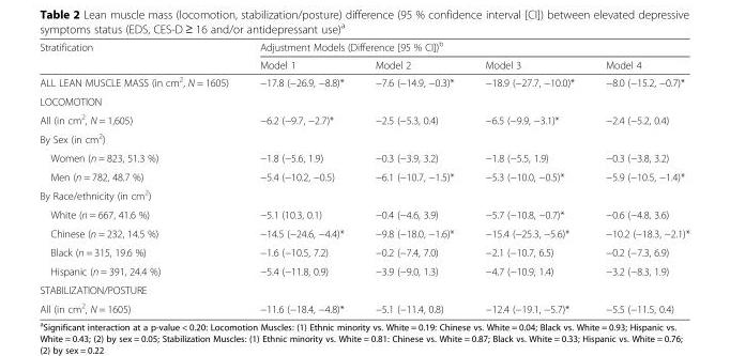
<table><thead><tr><td rowspan="2">Stratification</td><td colspan="4">Adjustment Models (Difference [95 % CI])<sup>b</sup></td></tr><tr><td>Model 1</td><td>Model 2</td><td>Model 3</td><td>Model 4</td></tr></thead><tbody><tr><td>ALL LEAN MUSCLE MASS (in cm<sup>2</sup>, N = 1605)</td><td>−17.8 (−26.9, −8.8)*</td><td>−7.6 (−14.9, −0.3)*</td><td>−18.9 (−27.7, −10.0)*</td><td>−8.0 (−15.2, −0.7)*</td></tr><tr><td colspan="5">LOCOMOTION</td></tr><tr><td>All (in cm<sup>2</sup>, N = 1,605)</td><td>−6.2 (−9.7, −2.7)*</td><td>−2.5 (−5.3, 0.4)</td><td>−6.5 (−9.9, −3.1)*</td><td>−2.4 (−5.2, 0.4)</td></tr><tr><td colspan="5">By Sex (in cm<sup>2</sup>)</td></tr><tr><td>Women (n = 823, 51.3 %)</td><td>−1.8 (−5.6, 1.9)</td><td>−0.3 (−3.9, 3.2)</td><td>−1.8 (−5.5, 1.9)</td><td>−0.3 (−3.8, 3.2)</td></tr><tr><td>Men (n = 782, 48.7 %)</td><td>−5.4 (−10.2, −0.5)</td><td>−6.1 (−10.7, −1.5)*</td><td>−5.3 (−10.0, −0.5)*</td><td>−5.9 (−10.5, −1.4)*</td></tr><tr><td colspan="5">By Race/ethnicity (in cm<sup>2</sup>)</td></tr><tr><td>White (n = 667, 41.6 %)</td><td>−5.1 (10.3, 0.1)</td><td>−0.4 (−4.6, 3.9)</td><td>−5.7 (−10.8, −0.7)*</td><td>−0.6 (−4.8, 3.6)</td></tr><tr><td>Chinese (n = 232, 14.5 %)</td><td>−14.5 (−24.6, −4.4)*</td><td>−9.8 (−18.0, −1.6)*</td><td>−15.4 (−25.3, −5.6)*</td><td>−10.2 (−18.3, −2.1)*</td></tr><tr><td>Black (n = 315, 19.6 %)</td><td>−1.6 (−10.5, 7.2)</td><td>−0.2 (−7.4, 7.0)</td><td>−2.1 (−10.7, 6.5)</td><td>−0.2 (−7.3, 6.9)</td></tr><tr><td>Hispanic (n = 391, 24.4 %)</td><td>−5.4 (−11.8, 0.9)</td><td>−3.9 (−9.0, 1.3)</td><td>−4.7 (−10.9, 1.4)</td><td>−3.2 (−8.3, 1.9)</td></tr><tr><td colspan="5">STABILIZATION/POSTURE</td></tr><tr><td>All (in cm<sup>2</sup>, N = 1605)</td><td>−11.6 (−18.4, −4.8)*</td><td>−5.1 (−11.4, 0.8)</td><td>−12.4 (−19.1, −5.7)*</td><td>−5.5 (−11.5, 0.4)</td></tr></tbody></table>